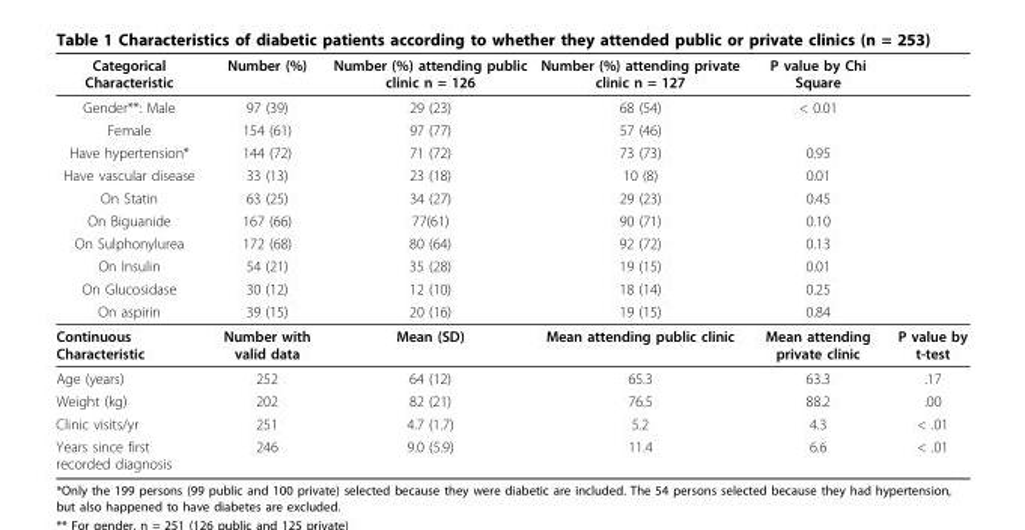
<table><thead><tr><td>Categorical Characteristic</td><td>Number (%)</td><td>Number (%) attending public clinic n = 126</td><td>Number (%) attending private clinic n = 127</td><td>P value by Chi Square</td><td></td></tr></thead><tbody><tr><td>Gender**: Male</td><td>97 (39)</td><td>29 (23)</td><td>68 (54)</td><td>&lt; 0.01</td><td></td></tr><tr><td>Female</td><td>154 (61)</td><td>97 (77)</td><td>57 (46)</td><td></td><td></td></tr><tr><td>Have hypertension*</td><td>144 (72)</td><td>71 (72)</td><td>73 (73)</td><td>0.95</td><td></td></tr><tr><td>Have vascular disease</td><td>33 (13)</td><td>23 (18)</td><td>10 (8)</td><td>0.01</td><td></td></tr><tr><td>On Statin</td><td>63 (25)</td><td>34 (27)</td><td>29 (23)</td><td>0.45</td><td></td></tr><tr><td>On Biguanide</td><td>167 (66)</td><td>77(61)</td><td>90 (71)</td><td>0.10</td><td></td></tr><tr><td>On Sulphonylurea</td><td>172 (68)</td><td>80 (64)</td><td>92 (72)</td><td>0.13</td><td></td></tr><tr><td>On Insulin</td><td>54 (21)</td><td>35 (28)</td><td>19 (15)</td><td>0.01</td><td></td></tr><tr><td>On Glucosidase</td><td>30 (12)</td><td>12 (10)</td><td>18 (14)</td><td>0.25</td><td></td></tr><tr><td>On aspirin</td><td>39 (15)</td><td>20 (16)</td><td>19 (15)</td><td>0.84</td><td></td></tr><tr><td>Continuous Characteristic</td><td>Number with valid data</td><td>Mean (SD)</td><td>Mean attending public clinic</td><td>Mean attending private clinic</td><td>P value by t-test</td></tr><tr><td>Age (years)</td><td>252</td><td>64 (12)</td><td>65.3</td><td>63.3</td><td>.17</td></tr><tr><td>Weight (kg)</td><td>202</td><td>82 (21)</td><td>76.5</td><td>88.2</td><td>.00</td></tr><tr><td>Clinic visits/yr</td><td>251</td><td>4.7 (1.7)</td><td>5.2</td><td>4.3</td><td>&lt; .01</td></tr><tr><td>Years since first recorded diagnosis</td><td>246</td><td>9.0 (5.9)</td><td>11.4</td><td>6.6</td><td>&lt; .01</td></tr></tbody></table>